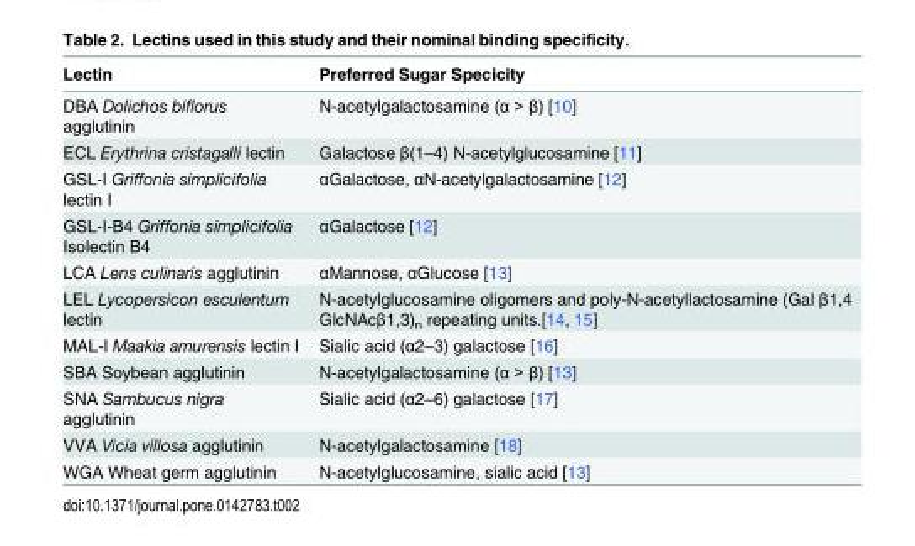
<table><thead><tr><td>Lectin</td><td>Preferred Sugar Specicity</td></tr></thead><tbody><tr><td>DBA Dolichos biflorus agglutinin</td><td>N-acetylgalactosamine (α &gt; β) [10]</td></tr><tr><td>ECL Erythrina cristagalli lectin</td><td>Galactose β(1–4) N-acetylglucosamine [11]</td></tr><tr><td>GSL-I Griffonia simplicifolia lectin I</td><td>αGalactose, αN-acetylgalactosamine [12]</td></tr><tr><td>GSL-I-B4 Griffonia simplicifolia Isolectin B4</td><td>αGalactose [12]</td></tr><tr><td>LCA Lens culinaris agglutinin</td><td>αMannose, αGlucose [13]</td></tr><tr><td>LEL Lycopersicon esculentum lectin</td><td>N-acetylglucosamine oligomers and poly-N-acetyllactosamine (Gal β1,4 GlcNAcβ1,3)<sub>n</sub> repeating units.[14, 15]</td></tr><tr><td>MAL-I Maakia amurensis lectin I</td><td>Sialic acid (α2–3) galactose [16]</td></tr><tr><td>SBA Soybean agglutinin</td><td>N-acetylgalactosamine (α &gt; β) [13]</td></tr><tr><td>SNA Sambucus nigra agglutinin</td><td>Sialic acid (α2–6) galactose [17]</td></tr><tr><td>VVA Vicia villosa agglutinin</td><td>N-acetylgalactosamine [18]</td></tr><tr><td>WGA Wheat germ agglutinin</td><td>N-acetylglucosamine, sialic acid [13]</td></tr></tbody></table>